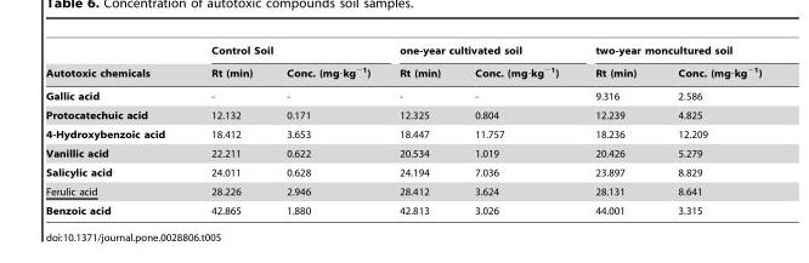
<table><thead><tr><td rowspan="2">Autotoxic chemicals</td><td colspan="2">Control Soil</td><td colspan="2">one-year cultivated soil</td><td colspan="2">two-year moncultured soil</td></tr><tr><td>Rt (min)</td><td>Conc. (mg·kg<sup>−1</sup>)</td><td>Rt (min)</td><td>Conc. (mg·kg<sup>−1</sup>)</td><td>Rt (min)</td><td>Conc. (mg·kg<sup>−1</sup>)</td></tr></thead><tbody><tr><td>Gallic acid</td><td>-</td><td>-</td><td>-</td><td>-</td><td>9.316</td><td>2.586</td></tr><tr><td>Protocatechuic acid</td><td>12.132</td><td>0.171</td><td>12.325</td><td>0.804</td><td>12.239</td><td>4.825</td></tr><tr><td>4-Hydroxybenzoic acid</td><td>18.412</td><td>3.653</td><td>18.447</td><td>11.757</td><td>18.236</td><td>12.209</td></tr><tr><td>Vanillic acid</td><td>22.211</td><td>0.622</td><td>20.534</td><td>1.019</td><td>20.426</td><td>5.279</td></tr><tr><td>Salicylic acid</td><td>24.011</td><td>0.628</td><td>24.194</td><td>7.036</td><td>23.897</td><td>8.829</td></tr><tr><td>Ferulic acid</td><td>28.226</td><td>2.946</td><td>28.412</td><td>3.624</td><td>28.131</td><td>8.641</td></tr><tr><td>Benzoic acid</td><td>42.865</td><td>1.880</td><td>42.813</td><td>3.026</td><td>44.001</td><td>3.315</td></tr></tbody></table>